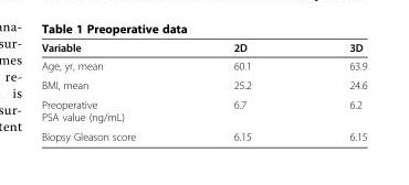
<table><thead><tr><td>Variable</td><td>2D</td><td>3D</td></tr></thead><tbody><tr><td>Age, yr, mean</td><td>60.1</td><td>63.9</td></tr><tr><td>BMI, mean</td><td>25.2</td><td>24.6</td></tr><tr><td>Preoperative PSA value (ng/mL)</td><td>6.7</td><td>6.2</td></tr><tr><td>Biopsy Gleason score</td><td>6.15</td><td>6.15</td></tr></tbody></table>